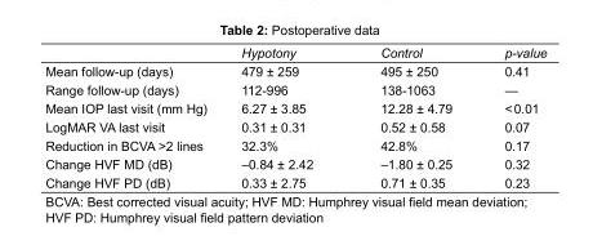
<table><thead><tr><td></td><td>Hypotony</td><td>Control</td><td>p-value</td></tr></thead><tbody><tr><td>Mean follow-up (days)</td><td>479 ± 259</td><td>495 ± 250</td><td>0.41</td></tr><tr><td>Range follow-up (days)</td><td>112-996</td><td>138-1063</td><td>—</td></tr><tr><td>Mean IOP last visit (mm Hg)</td><td>6.27 ± 3.85</td><td>12.28 ± 4.79</td><td>&lt; 0.01</td></tr><tr><td>LogMAR VA last visit</td><td>0.31 ± 0.31</td><td>0.52 ± 0.58</td><td>0.07</td></tr><tr><td>Reduction in BCVA &gt;2 lines</td><td>32.3%</td><td>42.8%</td><td>0.17</td></tr><tr><td>Change HVF MD (dB)</td><td>–0.84 ± 2.42</td><td>–1.80 ± 0.25</td><td>0.32</td></tr><tr><td>Change HVF PD (dB)</td><td>0.33 ± 2.75</td><td>0.71 ± 0.35</td><td>0.23</td></tr></tbody></table>